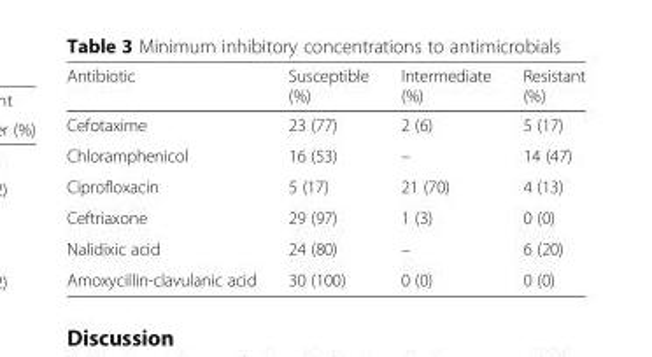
<table><thead><tr><td>Antibiotic</td><td>Susceptible (%)</td><td>Intermediate (%)</td><td>Resistant (%)</td></tr></thead><tbody><tr><td>Cefotaxime</td><td>23 (77)</td><td>2 (6)</td><td>5 (17)</td></tr><tr><td>Chloramphenicol</td><td>16 (53)</td><td>–</td><td>14 (47)</td></tr><tr><td>Ciprofloxacin</td><td>5 (17)</td><td>21 (70)</td><td>4 (13)</td></tr><tr><td>Ceftriaxone</td><td>29 (97)</td><td>1 (3)</td><td>0 (0)</td></tr><tr><td>Nalidixic acid</td><td>24 (80)</td><td>–</td><td>6 (20)</td></tr><tr><td>Amoxycillin-clavulanic acid</td><td>30 (100)</td><td>0 (0)</td><td>0 (0)</td></tr></tbody></table>